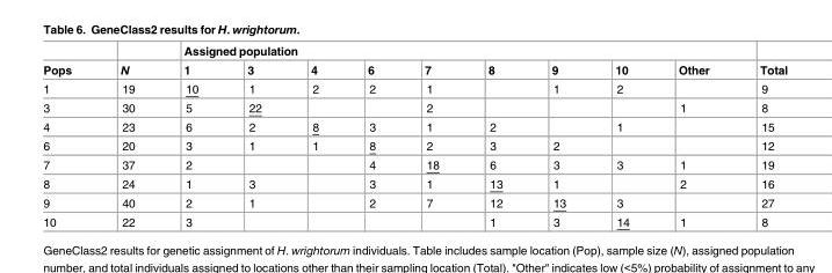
<table><thead><tr><td rowspan="2">Pops</td><td rowspan="2">N</td><td colspan="9">Assigned population</td><td rowspan="2">Total</td></tr><tr><td>1</td><td>3</td><td>4</td><td>6</td><td>7</td><td>8</td><td>9</td><td>10</td><td>Other</td></tr></thead><tbody><tr><td>1</td><td>19</td><td>10</td><td>1</td><td>2</td><td>2</td><td>1</td><td></td><td>1</td><td>2</td><td></td><td>9</td></tr><tr><td>3</td><td>30</td><td>5</td><td>22</td><td></td><td></td><td>2</td><td></td><td></td><td></td><td>1</td><td>8</td></tr><tr><td>4</td><td>23</td><td>6</td><td>2</td><td>8</td><td>3</td><td>1</td><td>2</td><td></td><td>1</td><td></td><td>15</td></tr><tr><td>6</td><td>20</td><td>3</td><td>1</td><td>1</td><td>8</td><td>2</td><td>3</td><td>2</td><td></td><td></td><td>12</td></tr><tr><td>7</td><td>37</td><td>2</td><td></td><td></td><td>4</td><td>18</td><td>6</td><td>3</td><td>3</td><td>1</td><td>19</td></tr><tr><td>8</td><td>24</td><td>1</td><td>3</td><td></td><td>3</td><td>1</td><td>13</td><td>1</td><td></td><td>2</td><td>16</td></tr><tr><td>9</td><td>40</td><td>2</td><td>1</td><td></td><td>2</td><td>7</td><td>12</td><td>13</td><td>3</td><td></td><td>27</td></tr><tr><td>10</td><td>22</td><td>3</td><td></td><td></td><td></td><td></td><td>1</td><td>3</td><td>14</td><td>1</td><td>8</td></tr></tbody></table>